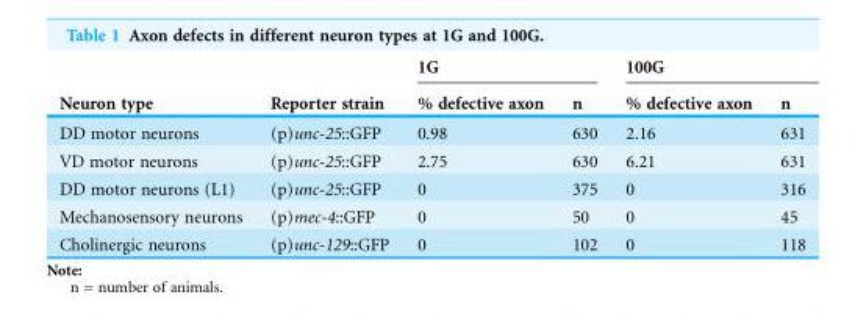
<table><thead><tr><td rowspan="2">Neuron type</td><td rowspan="2">Reporter strain</td><td colspan="2">1G</td><td colspan="2">100G</td></tr><tr><td>% defective axon</td><td>n</td><td>% defective axon</td><td>n</td></tr></thead><tbody><tr><td>DD motor neurons</td><td>(p)unc-25::GFP</td><td>0.98</td><td>630</td><td>2.16</td><td>631</td></tr><tr><td>VD motor neurons</td><td>(p)unc-25::GFP</td><td>2.75</td><td>630</td><td>6.21</td><td>631</td></tr><tr><td>DD motor neurons (L1)</td><td>(p)unc-25::GFP</td><td>0</td><td>375</td><td>0</td><td>316</td></tr><tr><td>Mechanosensory neurons</td><td>(p)mec-4::GFP</td><td>0</td><td>50</td><td>0</td><td>45</td></tr><tr><td>Cholinergic neurons</td><td>(p)unc-129::GFP</td><td>0</td><td>102</td><td>0</td><td>118</td></tr></tbody></table>